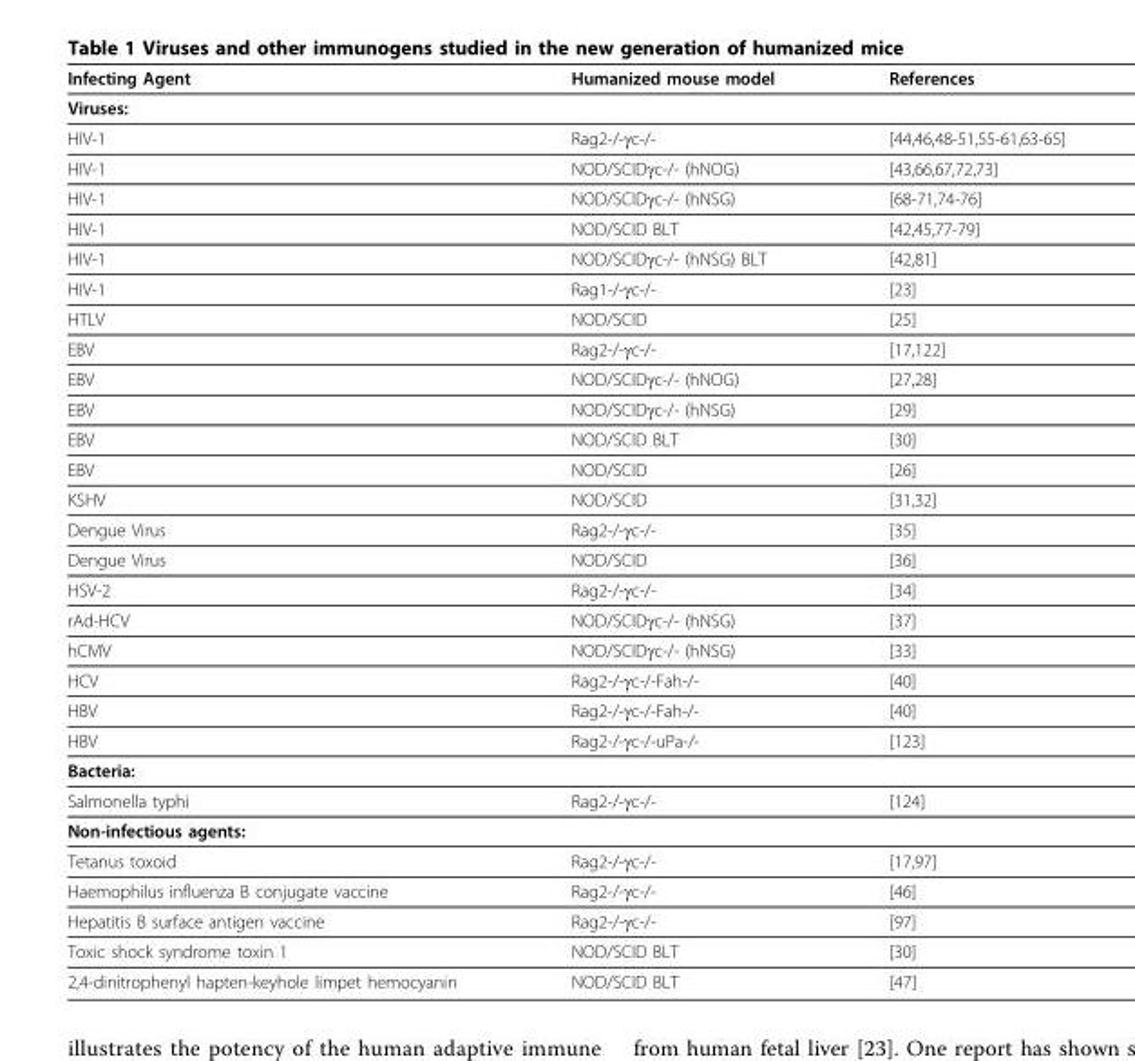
<table><thead><tr><td>Infecting Agent</td><td>Humanized mouse model</td><td>References</td></tr></thead><tbody><tr><td colspan="3">Viruses:</td></tr><tr><td>HIV-1</td><td>Rag2-/-γc-/-</td><td>[44,46,48-51,55-61,63-65]</td></tr><tr><td>HIV-1</td><td>NOD/SCIDγc-/- (hNOG)</td><td>[43,66,67,72,73]</td></tr><tr><td>HIV-1</td><td>NOD/SCIDγc-/- (hNSG)</td><td>[68-71,74-76]</td></tr><tr><td>HIV-1</td><td>NOD/SCID BLT</td><td>[42,45,77-79]</td></tr><tr><td>HIV-1</td><td>NOD/SCIDγc-/- (hNSG) BLT</td><td>[42,81]</td></tr><tr><td>HIV-1</td><td>Rag1-/-γc-/-</td><td>[23]</td></tr><tr><td>HTLV</td><td>NOD/SCID</td><td>[25]</td></tr><tr><td>EBV</td><td>Rag2-/-γc-/-</td><td>[17,122]</td></tr><tr><td>EBV</td><td>NOD/SCIDγc-/- (hNOG)</td><td>[27,28]</td></tr><tr><td>EBV</td><td>NOD/SCIDγc-/- (hNSG)</td><td>[29]</td></tr><tr><td>EBV</td><td>NOD/SCID BLT</td><td>[30]</td></tr><tr><td>EBV</td><td>NOD/SCID</td><td>[26]</td></tr><tr><td>KSHV</td><td>NOD/SCID</td><td>[31,32]</td></tr><tr><td>Dengue Virus</td><td>Rag2-/-γc-/-</td><td>[35]</td></tr><tr><td>Dengue Virus</td><td>NOD/SCID</td><td>[36]</td></tr><tr><td>HSV-2</td><td>Rag2-/-γc-/-</td><td>[34]</td></tr><tr><td>rAd-HCV</td><td>NOD/SCIDγc-/- (hNSG)</td><td>[37]</td></tr><tr><td>hCMV</td><td>NOD/SCIDγc-/- (hNSG)</td><td>[33]</td></tr><tr><td>HCV</td><td>Rag2-/-γc-/-Fah-/-</td><td>[40]</td></tr><tr><td>HBV</td><td>Rag2-/-γc-/-Fah-/-</td><td>[40]</td></tr><tr><td>HBV</td><td>Rag2-/-γc-/-uPa-/-</td><td>[123]</td></tr><tr><td colspan="3">Bacteria:</td></tr><tr><td>Salmonella typhi</td><td>Rag2-/-γc-/-</td><td>[124]</td></tr><tr><td colspan="3">Non-infectious agents:</td></tr><tr><td>Tetanus toxoid</td><td>Rag2-/-γc-/-</td><td>[17,97]</td></tr><tr><td>Haemophilus influenza B conjugate vaccine</td><td>Rag2-/-γc-/-</td><td>[46]</td></tr><tr><td>Hepatitis B surface antigen vaccine</td><td>Rag2-/-γc-/-</td><td>[97]</td></tr><tr><td>Toxic shock syndrome toxin 1</td><td>NOD/SCID BLT</td><td>[30]</td></tr><tr><td>2,4-dinitrophenyl hapten-keyhole limpet hemocyanin</td><td>NOD/SCID BLT</td><td>[47]</td></tr></tbody></table>